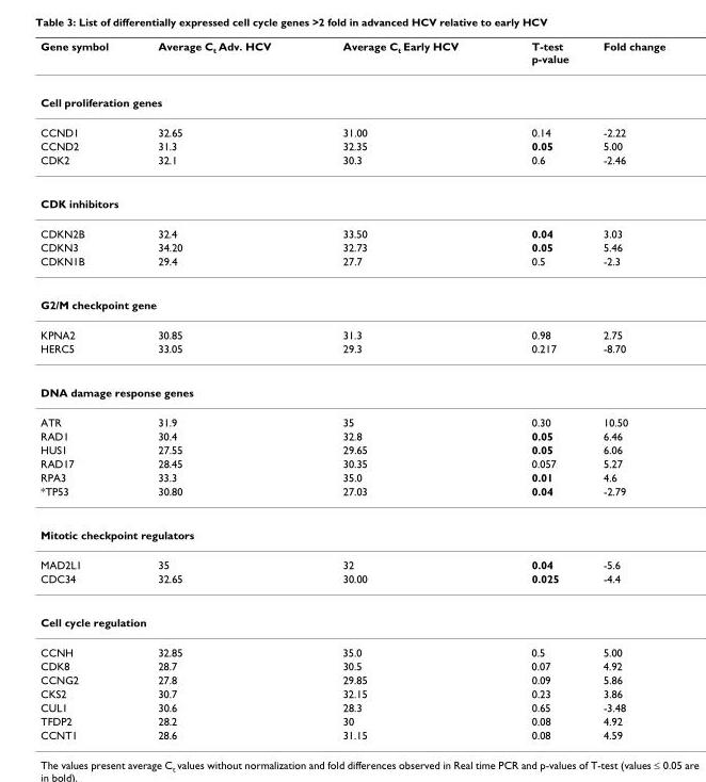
<table><thead><tr><td>Gene symbol</td><td>Average C<sub>t</sub> Adv. HCV</td><td>Average C<sub>t</sub> Early HCV</td><td>T-test p-value</td><td>Fold change</td></tr></thead><tbody><tr><td colspan="5">Cell proliferation genes</td></tr><tr><td>CCND1</td><td>32.65</td><td>31.00</td><td>0.14</td><td>-2.22</td></tr><tr><td>CCND2</td><td>31.3</td><td>32.35</td><td>0.05</td><td>5.00</td></tr><tr><td>CDK2</td><td>32.1</td><td>30.3</td><td>0.6</td><td>-2.46</td></tr><tr><td colspan="5">CDK inhibitors</td></tr><tr><td>CDKN2B</td><td>32.4</td><td>33.50</td><td>0.04</td><td>3.03</td></tr><tr><td>CDKN3</td><td>34.20</td><td>32.73</td><td>0.05</td><td>5.46</td></tr><tr><td>CDKN1B</td><td>29.4</td><td>27.7</td><td>0.5</td><td>-2.3</td></tr><tr><td colspan="5">G2/M checkpoint gene</td></tr><tr><td>KPNA2</td><td>30.85</td><td>31.3</td><td>0.98</td><td>2.75</td></tr><tr><td>HERC5</td><td>33.05</td><td>29.3</td><td>0.217</td><td>-8.70</td></tr><tr><td colspan="5">DNA damage response genes</td></tr><tr><td>ATR</td><td>31.9</td><td>35</td><td>0.30</td><td>10.50</td></tr><tr><td>RAD1</td><td>30.4</td><td>32.8</td><td>0.05</td><td>6.46</td></tr><tr><td>HUS1</td><td>27.55</td><td>29.65</td><td>0.05</td><td>6.06</td></tr><tr><td>RAD17</td><td>28.45</td><td>30.35</td><td>0.057</td><td>5.27</td></tr><tr><td>RPA3</td><td>33.3</td><td>35.0</td><td>0.01</td><td>4.6</td></tr><tr><td>*TP53</td><td>30.80</td><td>27.03</td><td>0.04</td><td>-2.79</td></tr><tr><td colspan="5">Mitotic checkpoint regulators</td></tr><tr><td>MAD2L1</td><td>35</td><td>32</td><td>0.04</td><td>-5.6</td></tr><tr><td>CDC34</td><td>32.65</td><td>30.00</td><td>0.025</td><td>-4.4</td></tr><tr><td colspan="5">Cell cycle regulation</td></tr><tr><td>CCNH</td><td>32.85</td><td>35.0</td><td>0.5</td><td>5.00</td></tr><tr><td>CDK8</td><td>28.7</td><td>30.5</td><td>0.07</td><td>4.92</td></tr><tr><td>CCNG2</td><td>27.8</td><td>29.85</td><td>0.09</td><td>5.86</td></tr><tr><td>CKS2</td><td>30.7</td><td>32.15</td><td>0.23</td><td>3.86</td></tr><tr><td>CUL1</td><td>30.6</td><td>28.3</td><td>0.65</td><td>-3.48</td></tr><tr><td>TFDP2</td><td>28.2</td><td>30</td><td>0.08</td><td>4.92</td></tr><tr><td>CCNT1</td><td>28.6</td><td>31.15</td><td>0.08</td><td>4.59</td></tr></tbody></table>